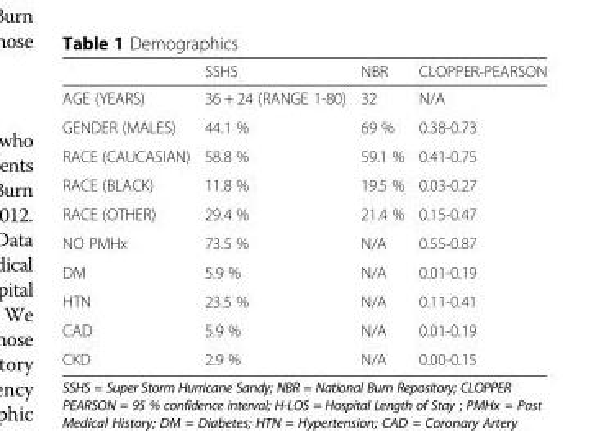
<table><thead><tr><td></td><td>SSHS</td><td>NBR</td><td>CLOPPER-PEARSON</td></tr></thead><tbody><tr><td>AGE (YEARS)</td><td>36 + 24 (RANGE 1-80)</td><td>32</td><td>N/A</td></tr><tr><td>GENDER (MALES)</td><td>44.1 %</td><td>69 %</td><td>0.38-0.73</td></tr><tr><td>RACE (CAUCASIAN)</td><td>58.8 %</td><td>59.1 %</td><td>0.41-0.75</td></tr><tr><td>RACE (BLACK)</td><td>11.8 %</td><td>19.5 %</td><td>0.03-0.27</td></tr><tr><td>RACE (OTHER)</td><td>29.4 %</td><td>21.4 %</td><td>0.15-0.47</td></tr><tr><td>NO PMHx</td><td>73.5 %</td><td>N/A</td><td>0.55-0.87</td></tr><tr><td>DM</td><td>5.9 %</td><td>N/A</td><td>0.01-0.19</td></tr><tr><td>HTN</td><td>23.5 %</td><td>N/A</td><td>0.11-0.41</td></tr><tr><td>CAD</td><td>5.9 %</td><td>N/A</td><td>0.01-0.19</td></tr><tr><td>CKD</td><td>2.9 %</td><td>N/A</td><td>0.00-0.15</td></tr></tbody></table>